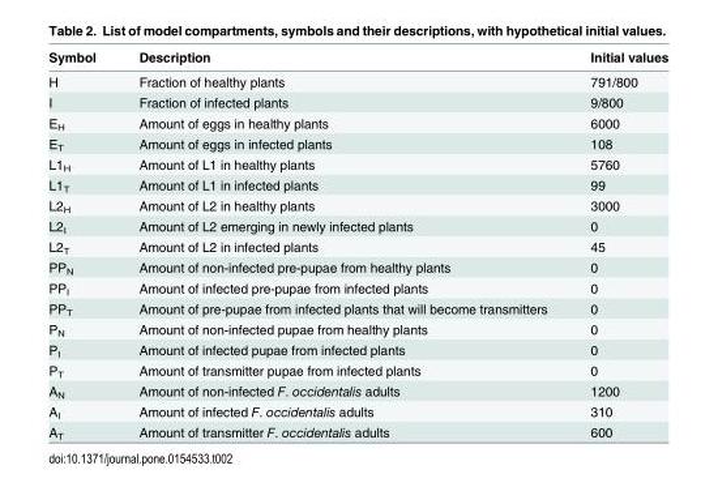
<table><thead><tr><td>Symbol</td><td>Description</td><td>Initial values</td></tr></thead><tbody><tr><td>H</td><td>Fraction of healthy plants</td><td>791/800</td></tr><tr><td>I</td><td>Fraction of infected plants</td><td>9/800</td></tr><tr><td>E<sub>H</sub></td><td>Amount of eggs in healthy plants</td><td>6000</td></tr><tr><td>E<sub>T</sub></td><td>Amount of eggs in infected plants</td><td>108</td></tr><tr><td>L1<sub>H</sub></td><td>Amount of L1 in healthy plants</td><td>5760</td></tr><tr><td>L1<sub>T</sub></td><td>Amount of L1 in infected plants</td><td>99</td></tr><tr><td>L2<sub>H</sub></td><td>Amount of L2 in healthy plants</td><td>3000</td></tr><tr><td>L2<sub>I</sub></td><td>Amount of L2 emerging in newly infected plants</td><td>0</td></tr><tr><td>L2<sub>T</sub></td><td>Amount of L2 in infected plants</td><td>45</td></tr><tr><td>PP<sub>N</sub></td><td>Amount of non-infected pre-pupae from healthy plants</td><td>0</td></tr><tr><td>PP<sub>I</sub></td><td>Amount of infected pre-pupae from infected plants</td><td>0</td></tr><tr><td>PP<sub>T</sub></td><td>Amount of pre-pupae from infected plants that will become transmitters</td><td>0</td></tr><tr><td>P<sub>N</sub></td><td>Amount of non-infected pupae from healthy plants</td><td>0</td></tr><tr><td>P<sub>I</sub></td><td>Amount of infected pupae from infected plants</td><td>0</td></tr><tr><td>P<sub>T</sub></td><td>Amount of transmitter pupae from infected plants</td><td>0</td></tr><tr><td>A<sub>N</sub></td><td>Amount of non-infected F. occidentalis adults</td><td>1200</td></tr><tr><td>A<sub>I</sub></td><td>Amount of infected F. occidentalis adults</td><td>310</td></tr><tr><td>A<sub>T</sub></td><td>Amount of transmitter F. occidentalis adults</td><td>600</td></tr></tbody></table>